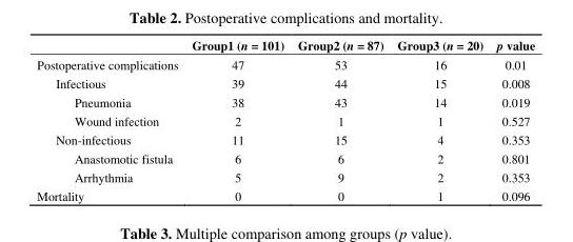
<table><thead><tr><td></td><td>Group1 (n = 101)</td><td>Group2 (n = 87)</td><td>Group3 (n = 20)</td><td>p value</td></tr></thead><tbody><tr><td>Postoperative complications</td><td>47</td><td>53</td><td>16</td><td>0.01</td></tr><tr><td>Infectious</td><td>39</td><td>44</td><td>15</td><td>0.008</td></tr><tr><td>Pneumonia</td><td>38</td><td>43</td><td>14</td><td>0.019</td></tr><tr><td>Wound infection</td><td>2</td><td>1</td><td>1</td><td>0.527</td></tr><tr><td>Non-infectious</td><td>11</td><td>15</td><td>4</td><td>0.353</td></tr><tr><td>Anastomotic fistula</td><td>6</td><td>6</td><td>2</td><td>0.801</td></tr><tr><td>Arrhythmia</td><td>5</td><td>9</td><td>2</td><td>0.353</td></tr><tr><td>Mortality</td><td>0</td><td>0</td><td>1</td><td>0.096</td></tr></tbody></table>